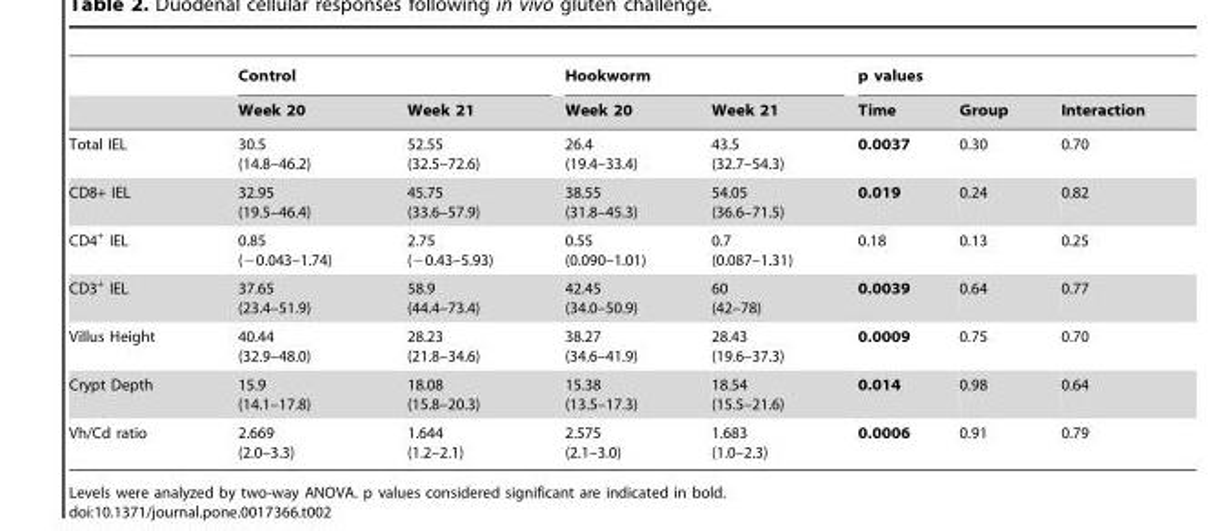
<table><thead><tr><td rowspan="2"></td><td colspan="2">Control</td><td colspan="2">Hookworm</td><td colspan="3">p values</td></tr><tr><td>Week 20</td><td>Week 21</td><td>Week 20</td><td>Week 21</td><td>Time</td><td>Group</td><td>Interaction</td></tr></thead><tbody><tr><td>Total IEL</td><td>30.5 (14.8–46.2)</td><td>52.55 (32.5–72.6)</td><td>26.4 (19.4–33.4)</td><td>43.5 (32.7–54.3)</td><td>0.0037</td><td>0.30</td><td>0.70</td></tr><tr><td>CD8+ IEL</td><td>32.95 (19.5–46.4)</td><td>45.75 (33.6–57.9)</td><td>38.55 (31.8–45.3)</td><td>54.05 (36.6–71.5)</td><td>0.019</td><td>0.24</td><td>0.82</td></tr><tr><td>CD4<sup>+</sup> IEL</td><td>0.85 (−0.043–1.74)</td><td>2.75 (−0.43–5.93)</td><td>0.55 (0.090–1.01)</td><td>0.7 (0.087–1.31)</td><td>0.18</td><td>0.13</td><td>0.25</td></tr><tr><td>CD3<sup>+</sup> IEL</td><td>37.65 (23.4–51.9)</td><td>58.9 (44.4–73.4)</td><td>42.45 (34.0–50.9)</td><td>60 (42–78)</td><td>0.0039</td><td>0.64</td><td>0.77</td></tr><tr><td>Villus Height</td><td>40.44 (32.9–48.0)</td><td>28.23 (21.8–34.6)</td><td>38.27 (34.6–41.9)</td><td>28.43 (19.6–37.3)</td><td>0.0009</td><td>0.75</td><td>0.70</td></tr><tr><td>Crypt Depth</td><td>15.9 (14.1–17.8)</td><td>18.08 (15.8–20.3)</td><td>15.38 (13.5–17.3)</td><td>18.54 (15.5–21.6)</td><td>0.014</td><td>0.98</td><td>0.64</td></tr><tr><td>Vh/Cd ratio</td><td>2.669 (2.0–3.3)</td><td>1.644 (1.2–2.1)</td><td>2.575 (2.1–3.0)</td><td>1.683 (1.0–2.3)</td><td>0.0006</td><td>0.91</td><td>0.79</td></tr></tbody></table>